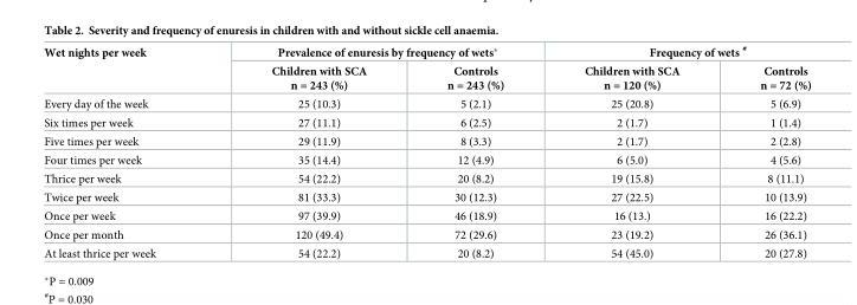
<table><thead><tr><td rowspan="2">Wet nights per week</td><td colspan="2">Prevalence of enuresis by frequency of wets*</td><td colspan="2">Frequency of wets <sup>#</sup></td></tr><tr><td>Children with SCA n = 243 (%)</td><td>Controls n = 243 (%)</td><td>Children with SCA n = 120 (%)</td><td>Controls n = 72 (%)</td></tr></thead><tbody><tr><td>Every day of the week</td><td>25 (10.3)</td><td>5 (2.1)</td><td>25 (20.8)</td><td>5 (6.9)</td></tr><tr><td>Six times per week</td><td>27 (11.1)</td><td>6 (2.5)</td><td>2 (1.7)</td><td>1 (1.4)</td></tr><tr><td>Five times per week</td><td>29 (11.9)</td><td>8 (3.3)</td><td>2 (1.7)</td><td>2 (2.8)</td></tr><tr><td>Four times per week</td><td>35 (14.4)</td><td>12 (4.9)</td><td>6 (5.0)</td><td>4 (5.6)</td></tr><tr><td>Thrice per week</td><td>54 (22.2)</td><td>20 (8.2)</td><td>19 (15.8)</td><td>8 (11.1)</td></tr><tr><td>Twice per week</td><td>81 (33.3)</td><td>30 (12.3)</td><td>27 (22.5)</td><td>10 (13.9)</td></tr><tr><td>Once per week</td><td>97 (39.9)</td><td>46 (18.9)</td><td>16 (13.)</td><td>16 (22.2)</td></tr><tr><td>Once per month</td><td>120 (49.4)</td><td>72 (29.6)</td><td>23 (19.2)</td><td>26 (36.1)</td></tr><tr><td>At least thrice per week</td><td>54 (22.2)</td><td>20 (8.2)</td><td>54 (45.0)</td><td>20 (27.8)</td></tr></tbody></table>